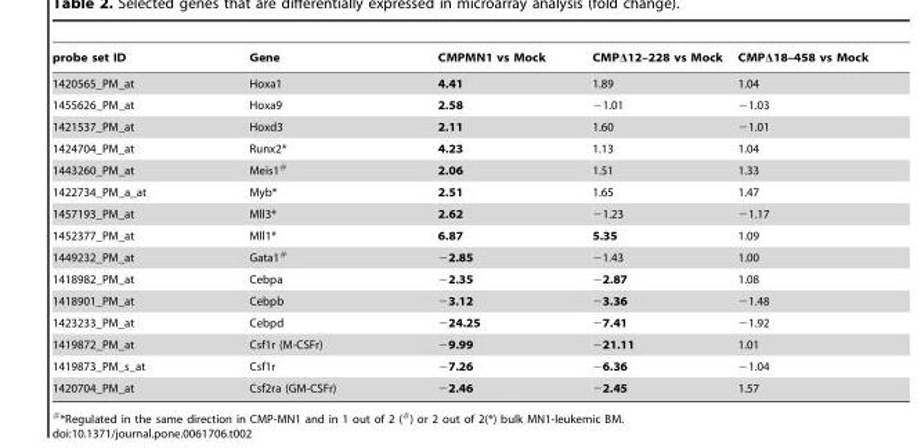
<table><thead><tr><td>probe set ID</td><td>Gene</td><td>CMPMN1 vs Mock</td><td>CMPΔ12–228 vs Mock</td><td>CMPΔ18–458 vs Mock</td></tr></thead><tbody><tr><td>1420565_PM_at</td><td>Hoxa1</td><td>4.41</td><td>1.89</td><td>1.04</td></tr><tr><td>1455626_PM_at</td><td>Hoxa9</td><td>2.58</td><td>−1.01</td><td>−1.03</td></tr><tr><td>1421537_PM_at</td><td>Hoxd3</td><td>2.11</td><td>1.60</td><td>−1.01</td></tr><tr><td>1424704_PM_at</td><td>Runx2*</td><td>4.23</td><td>1.13</td><td>1.04</td></tr><tr><td>1443260_PM_at</td><td>Meis1#</td><td>2.06</td><td>1.51</td><td>1.33</td></tr><tr><td>1422734_PM_a_at</td><td>Myb*</td><td>2.51</td><td>1.65</td><td>1.47</td></tr><tr><td>1457193_PM_at</td><td>Mll3*</td><td>2.62</td><td>−1.23</td><td>−1.17</td></tr><tr><td>1452377_PM_at</td><td>Mll1*</td><td>6.87</td><td>5.35</td><td>1.09</td></tr><tr><td>1449232_PM_at</td><td>Gata1#</td><td>−2.85</td><td>−1.43</td><td>1.00</td></tr><tr><td>1418982_PM_at</td><td>Cebpa</td><td>−2.35</td><td>−2.87</td><td>1.08</td></tr><tr><td>1418901_PM_at</td><td>Cebpb</td><td>−3.12</td><td>−3.36</td><td>−1.48</td></tr><tr><td>1423233_PM_at</td><td>Cebpd</td><td>−24.25</td><td>−7.41</td><td>−1.92</td></tr><tr><td>1419872_PM_at</td><td>Csf1r (M-CSFr)</td><td>−9.99</td><td>−21.11</td><td>1.01</td></tr><tr><td>1419873_PM_s_at</td><td>Csf1r</td><td>−7.26</td><td>−6.36</td><td>−1.04</td></tr><tr><td>1420704_PM_at</td><td>Csf2ra (GM-CSFr)</td><td>−2.46</td><td>−2.45</td><td>1.57</td></tr></tbody></table>